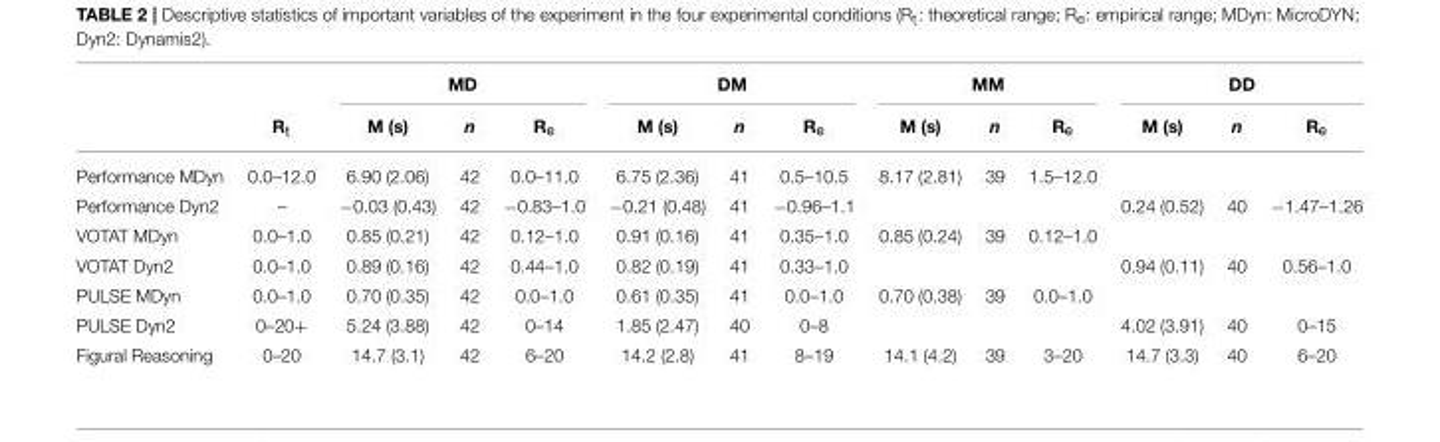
<table><thead><tr><td rowspan="2"></td><td rowspan="2">R<sub>t</sub></td><td colspan="3">MD</td><td colspan="3">DM</td><td colspan="3">MM</td><td colspan="3">DD</td></tr><tr><td>M (s)</td><td>n</td><td>R<sub>e</sub></td><td>M (s)</td><td>n</td><td>R<sub>e</sub></td><td>M (s)</td><td>n</td><td>R<sub>e</sub></td><td>M (s)</td><td>n</td><td>R<sub>e</sub></td></tr></thead><tbody><tr><td>Performance MDyn</td><td>0.0–12.0</td><td>6.90 (2.06)</td><td>42</td><td>0.0–11.0</td><td>6.75 (2.36)</td><td>41</td><td>0.5–10.5</td><td>8.17 (2.81)</td><td>39</td><td>1.5–12.0</td><td></td><td></td><td></td></tr><tr><td>Performance Dyn2</td><td>–</td><td>−0.03 (0.43)</td><td>42</td><td>−0.83–1.0</td><td>−0.21 (0.48)</td><td>41</td><td>−0.96–1.1</td><td></td><td></td><td></td><td>0.24 (0.52)</td><td>40</td><td>−1.47–1.26</td></tr><tr><td>VOTAT MDyn</td><td>0.0–1.0</td><td>0.85 (0.21)</td><td>42</td><td>0.12–1.0</td><td>0.91 (0.16)</td><td>41</td><td>0.35–1.0</td><td>0.85 (0.24)</td><td>39</td><td>0.12–1.0</td><td></td><td></td><td></td></tr><tr><td>VOTAT Dyn2</td><td>0.0–1.0</td><td>0.89 (0.16)</td><td>42</td><td>0.44–1.0</td><td>0.82 (0.19)</td><td>41</td><td>0.33–1.0</td><td></td><td></td><td></td><td>0.94 (0.11)</td><td>40</td><td>0.56–1.0</td></tr><tr><td>PULSE MDyn</td><td>0.0–1.0</td><td>0.70 (0.35)</td><td>42</td><td>0.0–1.0</td><td>0.61 (0.35)</td><td>41</td><td>0.0–1.0</td><td>0.70 (0.38)</td><td>39</td><td>0.0–1.0</td><td></td><td></td><td></td></tr><tr><td>PULSE Dyn2</td><td>0–20+</td><td>5.24 (3.88)</td><td>42</td><td>0–14</td><td>1.85 (2.47)</td><td>40</td><td>0–8</td><td></td><td></td><td></td><td>4.02 (3.91)</td><td>40</td><td>0–15</td></tr><tr><td>Figural Reasoning</td><td>0–20</td><td>14.7 (3.1)</td><td>42</td><td>6–20</td><td>14.2 (2.8)</td><td>41</td><td>8–19</td><td>14.1 (4.2)</td><td>39</td><td>3–20</td><td>14.7 (3.3)</td><td>40</td><td>6–20</td></tr></tbody></table>